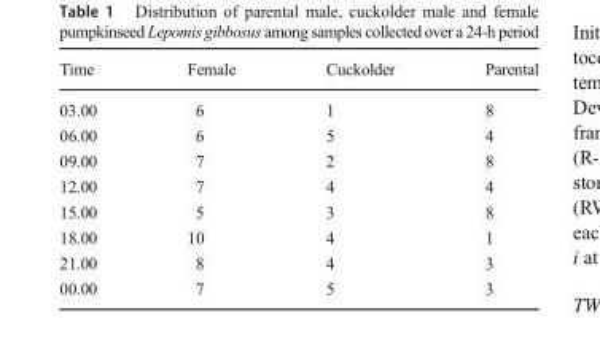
<table><thead><tr><td>Time</td><td>Female</td><td>Cuckolder</td><td>Parental</td></tr></thead><tbody><tr><td>03.00</td><td>6</td><td>1</td><td>8</td></tr><tr><td>06.00</td><td>6</td><td>5</td><td>4</td></tr><tr><td>09.00</td><td>7</td><td>2</td><td>8</td></tr><tr><td>12.00</td><td>7</td><td>4</td><td>4</td></tr><tr><td>15.00</td><td>5</td><td>3</td><td>8</td></tr><tr><td>18.00</td><td>10</td><td>4</td><td>1</td></tr><tr><td>21.00</td><td>8</td><td>4</td><td>3</td></tr><tr><td>00.00</td><td>7</td><td>5</td><td>3</td></tr></tbody></table>